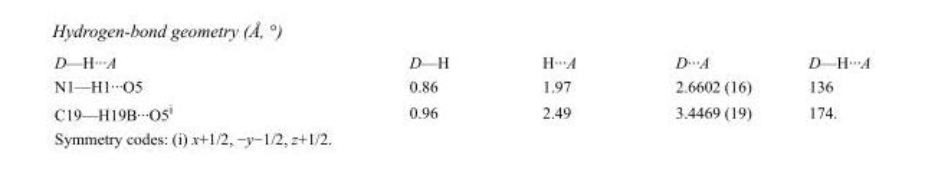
<table><tbody><tr><td>D—H···A</td><td>D—H</td><td>H···A</td><td>D···A</td><td>D—H···A</td></tr><tr><td>N1—H1···O5</td><td>0.86</td><td>1.97</td><td>2.6602 (16)</td><td>136</td></tr><tr><td>C19—H19B···O5<sup>i</sup></td><td>0.96</td><td>2.49</td><td>3.4469 (19)</td><td>174.</td></tr></tbody></table>